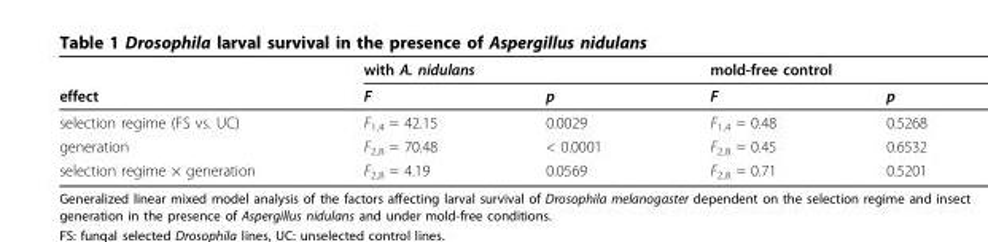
<table><thead><tr><td rowspan="2">effect</td><td colspan="2">with A. nidulans</td><td colspan="2">mold-free control</td></tr><tr><td>F</td><td>p</td><td>F</td><td>p</td></tr></thead><tbody><tr><td>selection regime (FS vs. UC)</td><td>F<sub>1,4</sub> = 42.15</td><td>0.0029</td><td>F<sub>1,4</sub> = 0.48</td><td>0.5268</td></tr><tr><td>generation</td><td>F<sub>2,8</sub> = 70.48</td><td>&lt; 0.0001</td><td>F<sub>2,8</sub> = 0.45</td><td>0.6532</td></tr><tr><td>selection regime × generation</td><td>F<sub>2,8</sub> = 4.19</td><td>0.0569</td><td>F<sub>2,8</sub> = 0.71</td><td>0.5201</td></tr></tbody></table>